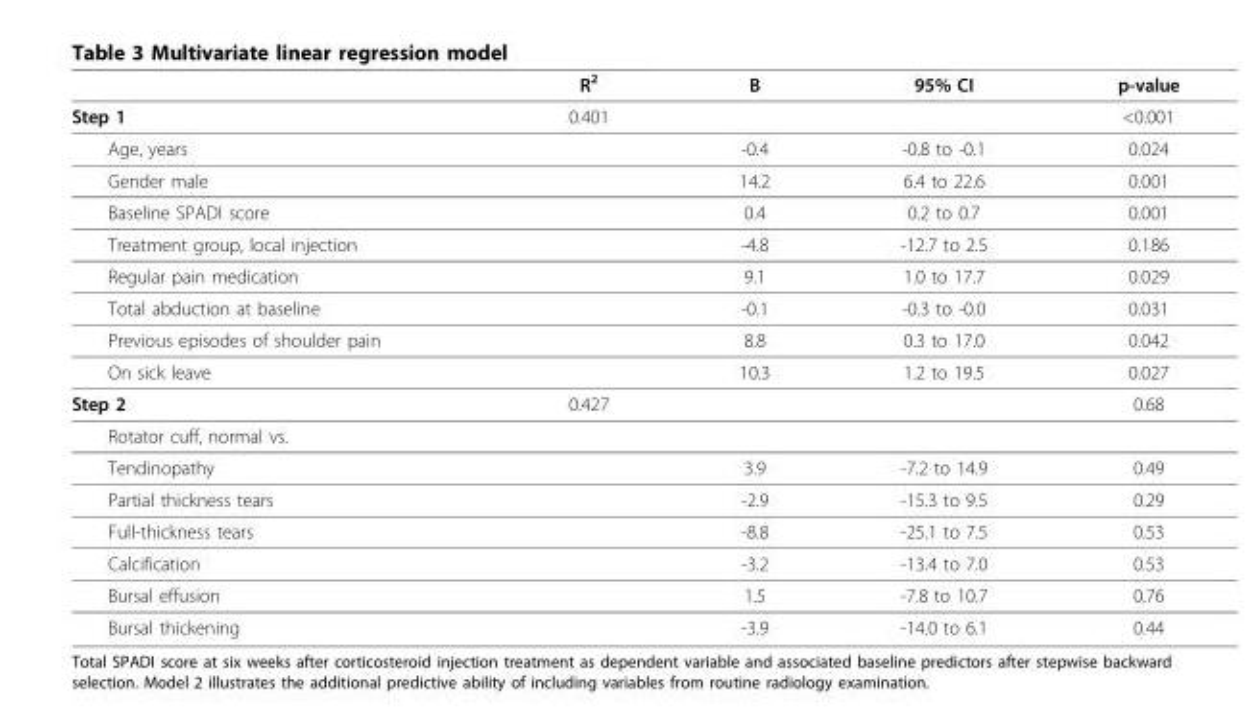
<table><thead><tr><td></td><td>R<sup>2</sup></td><td>B</td><td>95% CI</td><td>p-value</td></tr></thead><tbody><tr><td>Step 1</td><td>0.401</td><td></td><td></td><td>&lt;0.001</td></tr><tr><td>Age, years</td><td></td><td>-0.4</td><td>-0.8 to -0.1</td><td>0.024</td></tr><tr><td>Gender male</td><td></td><td>14.2</td><td>6.4 to 22.6</td><td>0.001</td></tr><tr><td>Baseline SPADI score</td><td></td><td>0.4</td><td>0.2 to 0.7</td><td>0.001</td></tr><tr><td>Treatment group, local injection</td><td></td><td>-4.8</td><td>-12.7 to 2.5</td><td>0.186</td></tr><tr><td>Regular pain medication</td><td></td><td>9.1</td><td>1.0 to 17.7</td><td>0.029</td></tr><tr><td>Total abduction at baseline</td><td></td><td>-0.1</td><td>-0.3 to -0.0</td><td>0.031</td></tr><tr><td>Previous episodes of shoulder pain</td><td></td><td>8.8</td><td>0.3 to 17.0</td><td>0.042</td></tr><tr><td>On sick leave</td><td></td><td>10.3</td><td>1.2 to 19.5</td><td>0.027</td></tr><tr><td>Step 2</td><td>0.427</td><td></td><td></td><td>0.68</td></tr><tr><td colspan="5">Rotator cuff, normal vs.</td></tr><tr><td>Tendinopathy</td><td></td><td>3.9</td><td>-7.2 to 14.9</td><td>0.49</td></tr><tr><td>Partial thickness tears</td><td></td><td>-2.9</td><td>-15.3 to 9.5</td><td>0.29</td></tr><tr><td>Full-thickness tears</td><td></td><td>-8.8</td><td>-25.1 to 7.5</td><td>0.53</td></tr><tr><td>Calcification</td><td></td><td>-3.2</td><td>-13.4 to 7.0</td><td>0.53</td></tr><tr><td>Bursal effusion</td><td></td><td>1.5</td><td>-7.8 to 10.7</td><td>0.76</td></tr><tr><td>Bursal thickening</td><td></td><td>-3.9</td><td>-14.0 to 6.1</td><td>0.44</td></tr></tbody></table>